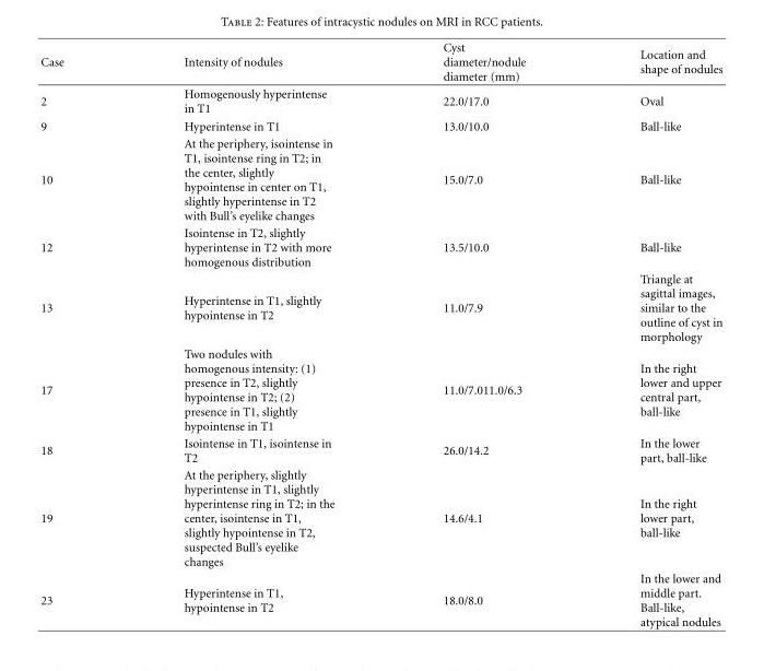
<table><thead><tr><td>Case</td><td>Intensity of nodules</td><td>Cyst diameter/nodule diameter (mm)</td><td>Location and shape of nodules</td></tr></thead><tbody><tr><td>2</td><td>Homogenously hyperintense in T1</td><td>22.0/17.0</td><td>Oval</td></tr><tr><td>9</td><td>Hyperintense in T1</td><td>13.0/10.0</td><td>Ball-like</td></tr><tr><td>10</td><td>At the periphery, isointense in T1, isointense ring in T2; in the center, slightly hypointense in center on T1, slightly hyperintense in T2 with Bull’s eyelike changes</td><td>15.0/7.0</td><td>Ball-like</td></tr><tr><td>12</td><td>Isointense in T2, slightly hyperintense in T2 with more homogenous distribution</td><td>13.5/10.0</td><td>Ball-like</td></tr><tr><td>13</td><td>Hyperintense in T1, slightly hypointense in T2</td><td>11.0/7.9</td><td>Triangle at sagittal images, similar to the outline of cyst in morphology</td></tr><tr><td>17</td><td>Two nodules with homogenous intensity: (1) presence in T2, slightly hypointense in T2; (2) presence in T1, slightly hypointense in T1</td><td>11.0/7.011.0/6.3</td><td>In the right lower and upper central part, ball-like</td></tr><tr><td>18</td><td>Isointense in T1, isointense in T2</td><td>26.0/14.2</td><td>In the lower part, ball-like</td></tr><tr><td>19</td><td>At the periphery, slightly hyperintense in T1, slightly hyperintense ring in T2; in the center, isointense in T1, slightly hypointense in T2, suspected Bull’s eyelike changes</td><td>14.6/4.1</td><td>In the right lower part, ball-like</td></tr><tr><td>23</td><td>Hyperintense in T1, hypointense in T2</td><td>18.0/8.0</td><td>In the lower and middle part. Ball-like, atypical nodules</td></tr></tbody></table>